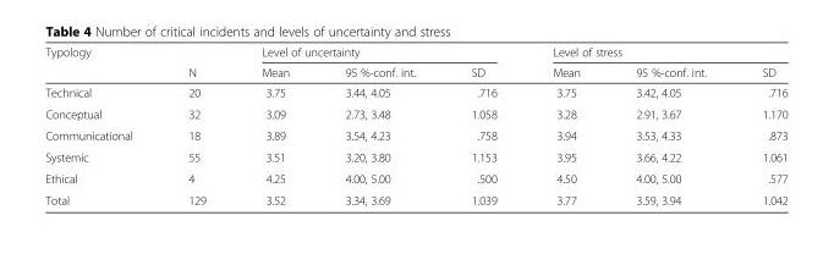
<table><thead><tr><td rowspan="2">Typology</td><td rowspan="2">N</td><td colspan="3">Level of uncertainty</td><td colspan="3">Level of stress</td></tr><tr><td>Mean</td><td>95 %-conf. int.</td><td>SD</td><td>Mean</td><td>95 %-conf. int.</td><td>SD</td></tr></thead><tbody><tr><td>Technical</td><td>20</td><td>3.75</td><td>3.44, 4.05</td><td>.716</td><td>3.75</td><td>3.42, 4.05</td><td>.716</td></tr><tr><td>Conceptual</td><td>32</td><td>3.09</td><td>2.73, 3.48</td><td>1.058</td><td>3.28</td><td>2.91, 3.67</td><td>1.170</td></tr><tr><td>Communicational</td><td>18</td><td>3.89</td><td>3.54, 4.23</td><td>.758</td><td>3.94</td><td>3.53, 4.33</td><td>.873</td></tr><tr><td>Systemic</td><td>55</td><td>3.51</td><td>3.20, 3.80</td><td>1.153</td><td>3.95</td><td>3.66, 4.22</td><td>1.061</td></tr><tr><td>Ethical</td><td>4</td><td>4.25</td><td>4.00, 5.00</td><td>.500</td><td>4.50</td><td>4.00, 5.00</td><td>.577</td></tr><tr><td>Total</td><td>129</td><td>3.52</td><td>3.34, 3.69</td><td>1.039</td><td>3.77</td><td>3.59, 3.94</td><td>1.042</td></tr></tbody></table>